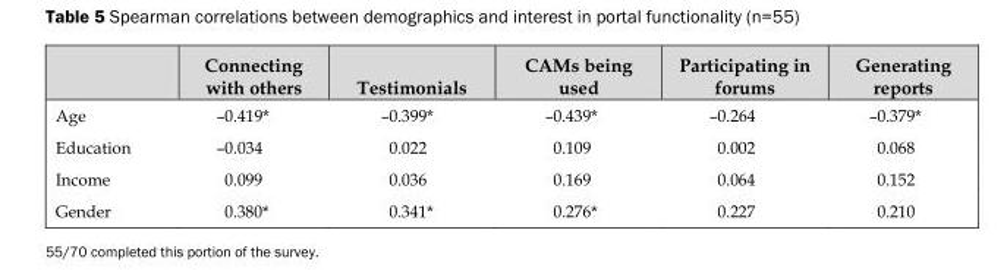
<table><thead><tr><td></td><td>Connecting with others</td><td>Testimonials</td><td>CAMs being used</td><td>Participating in forums</td><td>Generating reports</td></tr></thead><tbody><tr><td>Age</td><td>–0.419*</td><td>–0.399*</td><td>–0.439*</td><td>–0.264</td><td>–0.379*</td></tr><tr><td>Education</td><td>–0.034</td><td>0.022</td><td>0.109</td><td>0.002</td><td>0.068</td></tr><tr><td>Income</td><td>0.099</td><td>0.036</td><td>0.169</td><td>0.064</td><td>0.152</td></tr><tr><td>Gender</td><td>0.380*</td><td>0.341*</td><td>0.276*</td><td>0.227</td><td>0.210</td></tr></tbody></table>